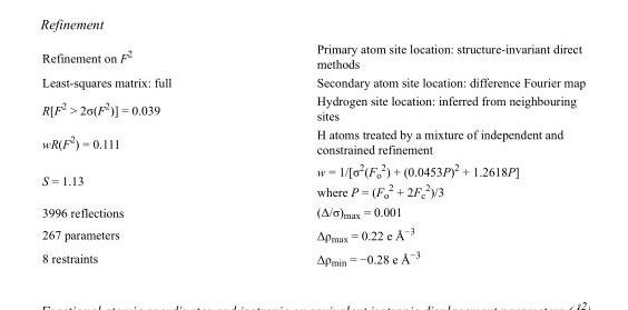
<table><tbody><tr><td>Refinement on F<sup>2</sup></td><td>Primary atom site location: structure-invariant direct methods</td></tr><tr><td>Least-squares matrix: full</td><td>Secondary atom site location: difference Fourier map</td></tr><tr><td>R[F<sup>2</sup> &gt; 2σ(F<sup>2</sup>)] = 0.039</td><td>Hydrogen site location: inferred from neighbouring sites</td></tr><tr><td>wR(F<sup>2</sup>) = 0.111</td><td>H atoms treated by a mixture of independent and constrained refinement</td></tr><tr><td>S = 1.13</td><td>w = 1/[σ<sup>2</sup>(F<sub>o</sub> <sup>2</sup>) + (0.0453P)<sup>2</sup> + 1.2618P] where P = (F<sub>o</sub> <sup>2</sup> + 2F<sub>c</sub> <sup>2</sup>)/3</td></tr><tr><td>3996 reflections</td><td>(Δ/σ)<sub>max</sub> = 0.001</td></tr><tr><td>267 parameters</td><td>Δρ<sub>max</sub> = 0.22 e Å<sup>−3</sup></td></tr><tr><td>8 restraints</td><td>Δρ<sub>min</sub> = −0.28 e Å<sup>−3</sup></td></tr></tbody></table>